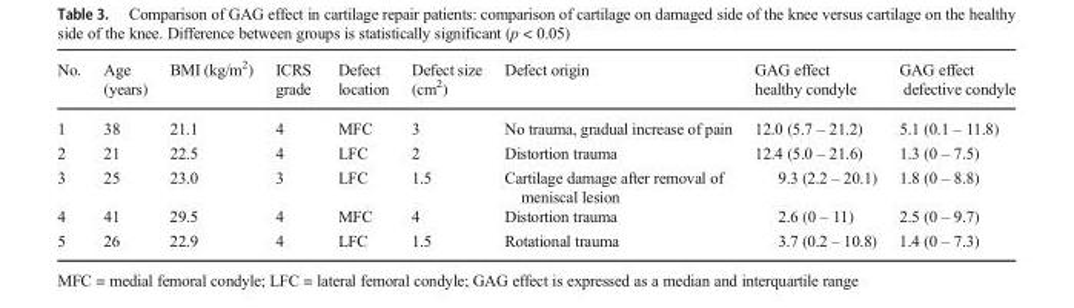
<table><thead><tr><td>No.</td><td>Age (years)</td><td>BMI (kg/m<sup>2</sup>)</td><td>ICRS grade</td><td>Defect location</td><td>Defect size (cm<sup>2</sup>)</td><td>Defect origin</td><td>GAG effect healthy condyle</td><td>GAG effect defective condyle</td></tr></thead><tbody><tr><td>1</td><td>38</td><td>21.1</td><td>4</td><td>MFC</td><td>3</td><td>No trauma, gradual increase of pain</td><td>12.0 (5.7 – 21.2)</td><td>5.1 (0.1 – 11.8)</td></tr><tr><td>2</td><td>21</td><td>22.5</td><td>4</td><td>LFC</td><td>2</td><td>Distortion trauma</td><td>12.4 (5.0 – 21.6)</td><td>1.3 (0 – 7.5)</td></tr><tr><td>3</td><td>25</td><td>23.0</td><td>3</td><td>LFC</td><td>1.5</td><td>Cartilage damage after removal of meniscal lesion</td><td>9.3 (2.2 – 20.1)</td><td>1.8 (0 – 8.8)</td></tr><tr><td>4</td><td>41</td><td>29.5</td><td>4</td><td>MFC</td><td>4</td><td>Distortion trauma</td><td>2.6 (0 – 11)</td><td>2.5 (0 – 9.7)</td></tr><tr><td>5</td><td>26</td><td>22.9</td><td>4</td><td>LFC</td><td>1.5</td><td>Rotational trauma</td><td>3.7 (0.2 – 10.8)</td><td>1.4 (0 – 7.3)</td></tr></tbody></table>